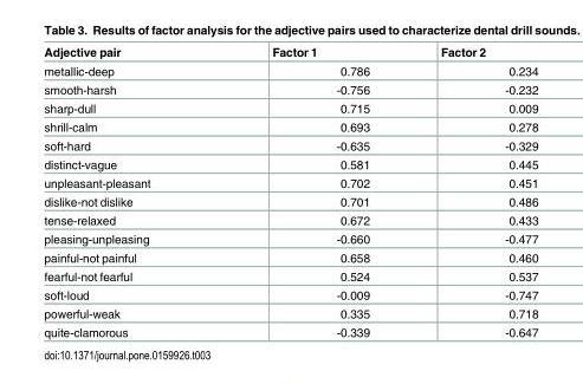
<table><thead><tr><td>Adjective pair</td><td>Factor 1</td><td>Factor 2</td></tr></thead><tbody><tr><td>metallic-deep</td><td>0.786</td><td>0.234</td></tr><tr><td>smooth-harsh</td><td>-0.756</td><td>-0.232</td></tr><tr><td>sharp-dull</td><td>0.715</td><td>0.009</td></tr><tr><td>shrill-calm</td><td>0.693</td><td>0.278</td></tr><tr><td>soft-hard</td><td>-0.635</td><td>-0.329</td></tr><tr><td>distinct-vague</td><td>0.581</td><td>0.445</td></tr><tr><td>unpleasant-pleasant</td><td>0.702</td><td>0.451</td></tr><tr><td>dislike-not dislike</td><td>0.701</td><td>0.486</td></tr><tr><td>tense-relaxed</td><td>0.672</td><td>0.433</td></tr><tr><td>pleasing-unpleasing</td><td>-0.660</td><td>-0.477</td></tr><tr><td>painful-not painful</td><td>0.658</td><td>0.460</td></tr><tr><td>fearful-not fearful</td><td>0.524</td><td>0.537</td></tr><tr><td>soft-loud</td><td>-0.009</td><td>-0.747</td></tr><tr><td>powerful-weak</td><td>0.335</td><td>0.718</td></tr><tr><td>quite-clamorous</td><td>-0.339</td><td>-0.647</td></tr></tbody></table>